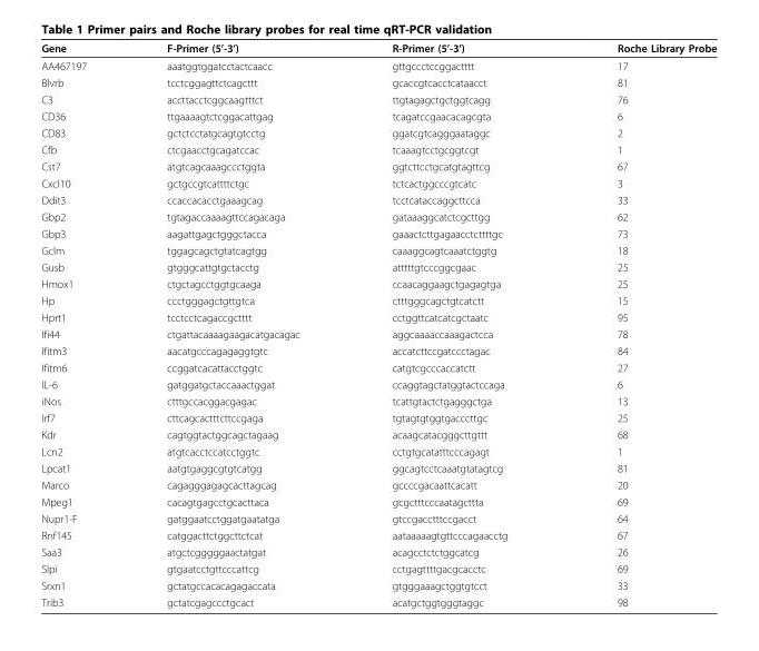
<table><thead><tr><td>Gene</td><td>F-Primer (5’-3’)</td><td>R-Primer (5’-3’)</td><td>Roche Library Probe</td></tr></thead><tbody><tr><td>AA467197</td><td>aaatggtggatcctactcaacc</td><td>gttgccctccggactttt</td><td>17</td></tr><tr><td>Blvrb</td><td>tcctcggagttctcagcttt</td><td>gcaccgtcacctcataacct</td><td>81</td></tr><tr><td>C3</td><td>accttacctcggcaagtttct</td><td>ttgtagagctgctggtcagg</td><td>76</td></tr><tr><td>CD36</td><td>ttgaaaagtctcggacattgag</td><td>tcagatccgaacacagcgta</td><td>6</td></tr><tr><td>CD83</td><td>gctctcctatgcagtgtcctg</td><td>ggatcgtcagggaataggc</td><td>2</td></tr><tr><td>Cfb</td><td>ctcgaacctgcagatccac</td><td>tcaaagtcctgcggtcgt</td><td>1</td></tr><tr><td>Cst7</td><td>atgtcagcaaagccctggta</td><td>ggtcttcctgcatgtagttcg</td><td>67</td></tr><tr><td>Cxcl10</td><td>gctgccgtcattttctgc</td><td>tctcactggcccgtcatc</td><td>3</td></tr><tr><td>Ddit3</td><td>ccaccacacctgaaagcag</td><td>tcctcataccaggcttcca</td><td>33</td></tr><tr><td>Gbp2</td><td>tgtagaccaaaagttccagacaga</td><td>gataaaggcatctcgcttgg</td><td>62</td></tr><tr><td>Gbp3</td><td>aagattgagctgggctacca</td><td>gaaactcttgagaacctcttttgc</td><td>73</td></tr><tr><td>Gclm</td><td>tggagcagctgtatcagtgg</td><td>caaaggcagtcaaatctggtg</td><td>18</td></tr><tr><td>Gusb</td><td>gtgggcattgtgctacctg</td><td>atttttgtcccggcgaac</td><td>25</td></tr><tr><td>Hmox1</td><td>ctgctagcctggtgcaaga</td><td>ccaacaggaagctgagagtga</td><td>25</td></tr><tr><td>Hp</td><td>ccctgggagctgttgtca</td><td>ctttgggcagctgtcatctt</td><td>15</td></tr><tr><td>Hprt1</td><td>tcctcctcagaccgctttt</td><td>cctggttcatcatcgctaatc</td><td>95</td></tr><tr><td>Ifi44</td><td>ctgattacaaaagaagacatgacagac</td><td>aggcaaaaccaaagactcca</td><td>78</td></tr><tr><td>Ifitm3</td><td>aacatgcccagagaggtgtc</td><td>accatcttccgatccctagac</td><td>84</td></tr><tr><td>Ifitm6</td><td>ccggatcacattacctggtc</td><td>catgtcgcccaccatctt</td><td>27</td></tr><tr><td>IL-6</td><td>gatggatgctaccaaactggat</td><td>ccaggtagctatggtactccaga</td><td>6</td></tr><tr><td>iNos</td><td>ctttgccacggacgagac</td><td>tcattgtactctgagggctga</td><td>13</td></tr><tr><td>Irf7</td><td>cttcagcactttcttccgaga</td><td>tgtagtgtggtgacccttgc</td><td>25</td></tr><tr><td>Kdr</td><td>cagtggtactggcagctagaag</td><td>acaagcatacgggcttgttt</td><td>68</td></tr><tr><td>Lcn2</td><td>atgtcacctccatcctggtc</td><td>cctgtgcatatttcccagagt</td><td>1</td></tr><tr><td>Lpcat1</td><td>aatgtgaggcgtgtcatgg</td><td>ggcagtcctcaaatgtatagtcg</td><td>81</td></tr><tr><td>Marco</td><td>cagagggagagcacttagcag</td><td>gccccgacaattcacatt</td><td>20</td></tr><tr><td>Mpeg1</td><td>cacagtgagcctgcacttaca</td><td>gcgctttcccaatagcttta</td><td>69</td></tr><tr><td>Nupr1-F</td><td>gatggaatcctggatgaatatga</td><td>gtccgacctttccgacct</td><td>64</td></tr><tr><td>Rnf145</td><td>catggacttctggcttctcat</td><td>aataaaaagtgttcccagaacctg</td><td>67</td></tr><tr><td>Saa3</td><td>atgctcgggggaactatgat</td><td>acagcctctctggcatcg</td><td>26</td></tr><tr><td>Slpi</td><td>gtgaatcctgttcccattcg</td><td>cctgagttttgacgcacctc</td><td>69</td></tr><tr><td>Srxn1</td><td>gctatgccacacagagaccata</td><td>gtgggaaagctggtgtcct</td><td>33</td></tr><tr><td>Trib3</td><td>gctatcgagccctgcact</td><td>acatgctggtgggtaggc</td><td>98</td></tr></tbody></table>